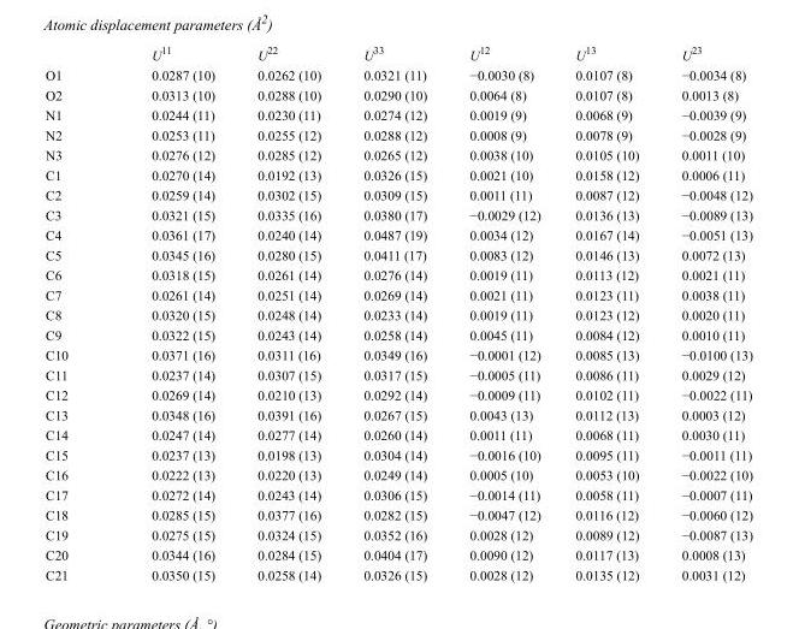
<table><thead><tr><td></td><td>U<sup>11</sup></td><td>U<sup>22</sup></td><td>U<sup>33</sup></td><td>U<sup>12</sup></td><td>U<sup>13</sup></td><td>U<sup>23</sup></td></tr></thead><tbody><tr><td>O1</td><td>0.0287 (10)</td><td>0.0262 (10)</td><td>0.0321 (11)</td><td>−0.0030 (8)</td><td>0.0107 (8)</td><td>−0.0034 (8)</td></tr><tr><td>O2</td><td>0.0313 (10)</td><td>0.0288 (10)</td><td>0.0290 (10)</td><td>0.0064 (8)</td><td>0.0107 (8)</td><td>0.0013 (8)</td></tr><tr><td>N1</td><td>0.0244 (11)</td><td>0.0230 (11)</td><td>0.0274 (12)</td><td>0.0019 (9)</td><td>0.0068 (9)</td><td>−0.0039 (9)</td></tr><tr><td>N2</td><td>0.0253 (11)</td><td>0.0255 (12)</td><td>0.0288 (12)</td><td>0.0008 (9)</td><td>0.0078 (9)</td><td>−0.0028 (9)</td></tr><tr><td>N3</td><td>0.0276 (12)</td><td>0.0285 (12)</td><td>0.0265 (12)</td><td>0.0038 (10)</td><td>0.0105 (10)</td><td>0.0011 (10)</td></tr><tr><td>C1</td><td>0.0270 (14)</td><td>0.0192 (13)</td><td>0.0326 (15)</td><td>0.0021 (10)</td><td>0.0158 (12)</td><td>0.0006 (11)</td></tr><tr><td>C2</td><td>0.0259 (14)</td><td>0.0302 (15)</td><td>0.0309 (15)</td><td>0.0011 (11)</td><td>0.0087 (12)</td><td>−0.0048 (12)</td></tr><tr><td>C3</td><td>0.0321 (15)</td><td>0.0335 (16)</td><td>0.0380 (17)</td><td>−0.0029 (12)</td><td>0.0136 (13)</td><td>−0.0089 (13)</td></tr><tr><td>C4</td><td>0.0361 (17)</td><td>0.0240 (14)</td><td>0.0487 (19)</td><td>0.0034 (12)</td><td>0.0167 (14)</td><td>−0.0051 (13)</td></tr><tr><td>C5</td><td>0.0345 (16)</td><td>0.0280 (15)</td><td>0.0411 (17)</td><td>0.0083 (12)</td><td>0.0146 (13)</td><td>0.0072 (13)</td></tr><tr><td>C6</td><td>0.0318 (15)</td><td>0.0261 (14)</td><td>0.0276 (14)</td><td>0.0019 (11)</td><td>0.0113 (12)</td><td>0.0021 (11)</td></tr><tr><td>C7</td><td>0.0261 (14)</td><td>0.0251 (14)</td><td>0.0269 (14)</td><td>0.0021 (11)</td><td>0.0123 (11)</td><td>0.0038 (11)</td></tr><tr><td>C8</td><td>0.0320 (15)</td><td>0.0248 (14)</td><td>0.0233 (14)</td><td>0.0019 (11)</td><td>0.0123 (12)</td><td>0.0020 (11)</td></tr><tr><td>C9</td><td>0.0322 (15)</td><td>0.0243 (14)</td><td>0.0258 (14)</td><td>0.0045 (11)</td><td>0.0084 (12)</td><td>0.0010 (11)</td></tr><tr><td>C10</td><td>0.0371 (16)</td><td>0.0311 (16)</td><td>0.0349 (16)</td><td>−0.0001 (12)</td><td>0.0085 (13)</td><td>−0.0100 (13)</td></tr><tr><td>C11</td><td>0.0237 (14)</td><td>0.0307 (15)</td><td>0.0317 (15)</td><td>−0.0005 (11)</td><td>0.0086 (11)</td><td>0.0029 (12)</td></tr><tr><td>C12</td><td>0.0269 (14)</td><td>0.0210 (13)</td><td>0.0292 (14)</td><td>−0.0009 (11)</td><td>0.0102 (11)</td><td>−0.0022 (11)</td></tr><tr><td>C13</td><td>0.0348 (16)</td><td>0.0391 (16)</td><td>0.0267 (15)</td><td>0.0043 (13)</td><td>0.0112 (13)</td><td>0.0003 (12)</td></tr><tr><td>C14</td><td>0.0247 (14)</td><td>0.0277 (14)</td><td>0.0260 (14)</td><td>0.0011 (11)</td><td>0.0068 (11)</td><td>0.0030 (11)</td></tr><tr><td>C15</td><td>0.0237 (13)</td><td>0.0198 (13)</td><td>0.0304 (14)</td><td>−0.0016 (10)</td><td>0.0095 (11)</td><td>−0.0011 (11)</td></tr><tr><td>C16</td><td>0.0222 (13)</td><td>0.0220 (13)</td><td>0.0249 (14)</td><td>0.0005 (10)</td><td>0.0053 (10)</td><td>−0.0022 (10)</td></tr><tr><td>C17</td><td>0.0272 (14)</td><td>0.0243 (14)</td><td>0.0306 (15)</td><td>−0.0014 (11)</td><td>0.0058 (11)</td><td>−0.0007 (11)</td></tr><tr><td>C18</td><td>0.0285 (15)</td><td>0.0377 (16)</td><td>0.0282 (15)</td><td>−0.0047 (12)</td><td>0.0116 (12)</td><td>−0.0060 (12)</td></tr><tr><td>C19</td><td>0.0275 (15)</td><td>0.0324 (15)</td><td>0.0352 (16)</td><td>0.0028 (12)</td><td>0.0089 (12)</td><td>−0.0087 (13)</td></tr><tr><td>C20</td><td>0.0344 (16)</td><td>0.0284 (15)</td><td>0.0404 (17)</td><td>0.0090 (12)</td><td>0.0117 (13)</td><td>0.0008 (13)</td></tr><tr><td>C21</td><td>0.0350 (15)</td><td>0.0258 (14)</td><td>0.0326 (15)</td><td>0.0028 (12)</td><td>0.0135 (12)</td><td>0.0031 (12)</td></tr></tbody></table>